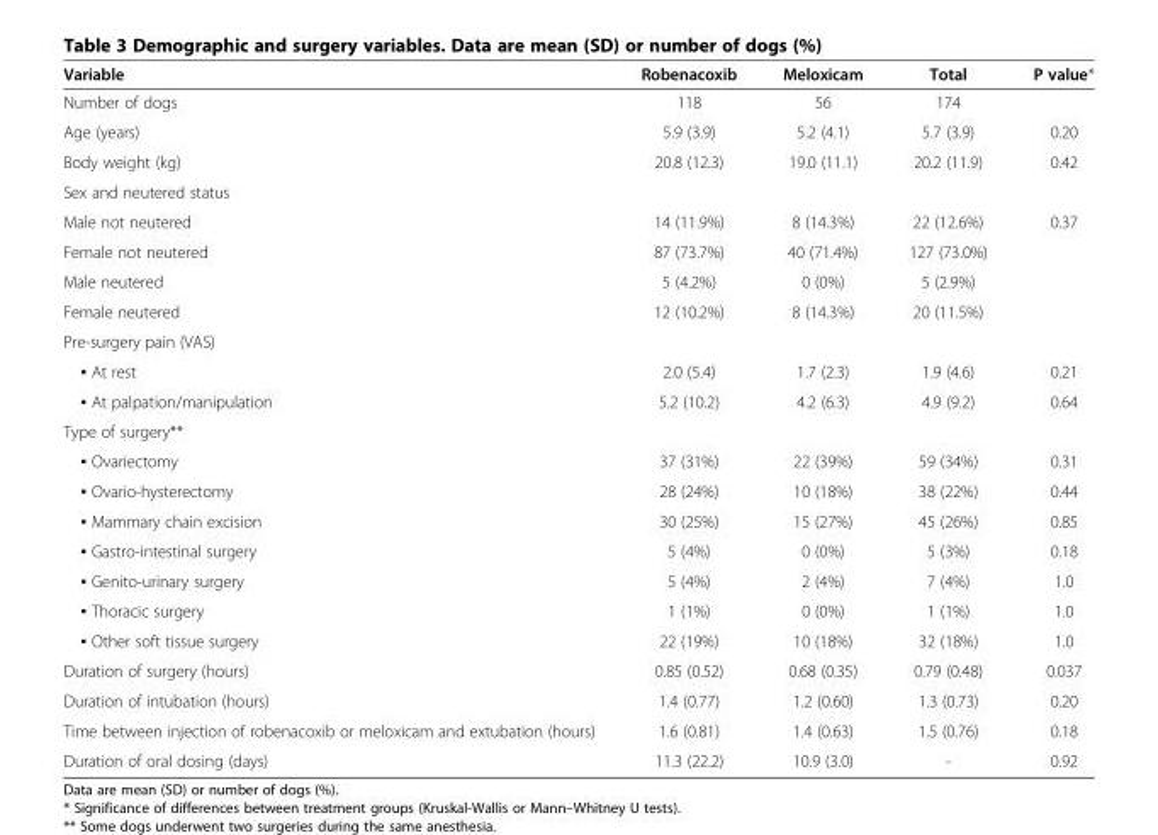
<table><thead><tr><td>Variable</td><td>Robenacoxib</td><td>Meloxicam</td><td>Total</td><td>P value*</td></tr></thead><tbody><tr><td>Number of dogs</td><td>118</td><td>56</td><td>174</td><td></td></tr><tr><td>Age (years)</td><td>5.9 (3.9)</td><td>5.2 (4.1)</td><td>5.7 (3.9)</td><td>0.20</td></tr><tr><td>Body weight (kg)</td><td>20.8 (12.3)</td><td>19.0 (11.1)</td><td>20.2 (11.9)</td><td>0.42</td></tr><tr><td colspan="5">Sex and neutered status</td></tr><tr><td>Male not neutered</td><td>14 (11.9%)</td><td>8 (14.3%)</td><td>22 (12.6%)</td><td rowspan="4">0.37</td></tr><tr><td>Female not neutered</td><td>87 (73.7%)</td><td>40 (71.4%)</td><td>127 (73.0%)</td></tr><tr><td>Male neutered</td><td>5 (4.2%)</td><td>0 (0%)</td><td>5 (2.9%)</td></tr><tr><td>Female neutered</td><td>12 (10.2%)</td><td>8 (14.3%)</td><td>20 (11.5%)</td></tr><tr><td colspan="5">Pre-surgery pain (VAS)</td></tr><tr><td>▪ At rest</td><td>2.0 (5.4)</td><td>1.7 (2.3)</td><td>1.9 (4.6)</td><td>0.21</td></tr><tr><td>▪ At palpation/manipulation</td><td>5.2 (10.2)</td><td>4.2 (6.3)</td><td>4.9 (9.2)</td><td>0.64</td></tr><tr><td colspan="5">Type of surgery**</td></tr><tr><td>▪ Ovariectomy</td><td>37 (31%)</td><td>22 (39%)</td><td>59 (34%)</td><td>0.31</td></tr><tr><td>▪ Ovario-hysterectomy</td><td>28 (24%)</td><td>10 (18%)</td><td>38 (22%)</td><td>0.44</td></tr><tr><td>▪ Mammary chain excision</td><td>30 (25%)</td><td>15 (27%)</td><td>45 (26%)</td><td>0.85</td></tr><tr><td>▪ Gastro-intestinal surgery</td><td>5 (4%)</td><td>0 (0%)</td><td>5 (3%)</td><td>0.18</td></tr><tr><td>▪ Genito-urinary surgery</td><td>5 (4%)</td><td>2 (4%)</td><td>7 (4%)</td><td>1.0</td></tr><tr><td>▪ Thoracic surgery</td><td>1 (1%)</td><td>0 (0%)</td><td>1 (1%)</td><td>1.0</td></tr><tr><td>▪ Other soft tissue surgery</td><td>22 (19%)</td><td>10 (18%)</td><td>32 (18%)</td><td>1.0</td></tr><tr><td>Duration of surgery (hours)</td><td>0.85 (0.52)</td><td>0.68 (0.35)</td><td>0.79 (0.48)</td><td>0.037</td></tr><tr><td>Duration of intubation (hours)</td><td>1.4 (0.77)</td><td>1.2 (0.60)</td><td>1.3 (0.73)</td><td>0.20</td></tr><tr><td>Time between injection of robenacoxib or meloxicam and extubation (hours)</td><td>1.6 (0.81)</td><td>1.4 (0.63)</td><td>1.5 (0.76)</td><td>0.18</td></tr><tr><td>Duration of oral dosing (days)</td><td>11.3 (22.2)</td><td>10.9 (3.0)</td><td>-</td><td>0.92</td></tr></tbody></table>